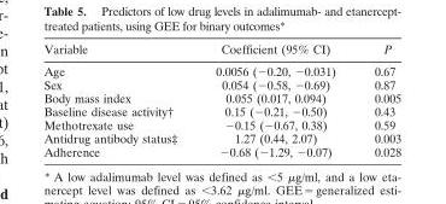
<table><thead><tr><td>Variable</td><td>Coefficient (95% CI)</td><td>P</td></tr></thead><tbody><tr><td>Age</td><td>0.0056 (−0.20, −0.031)</td><td>0.67</td></tr><tr><td>Sex</td><td>0.054 (−0.58, −0.69)</td><td>0.87</td></tr><tr><td>Body mass index</td><td>0.055 (0.017, 0.094)</td><td>0.005</td></tr><tr><td>Baseline disease activity†</td><td>0.15 (−0.21, −0.50)</td><td>0.43</td></tr><tr><td>Methotrexate use</td><td>−0.15 (−0.67, 0.38)</td><td>0.59</td></tr><tr><td>Antidrug antibody status‡</td><td>1.27 (0.44, 2.07)</td><td>0.003</td></tr><tr><td>Adherence</td><td>−0.68 (−1.29, −0.07)</td><td>0.028</td></tr></tbody></table>